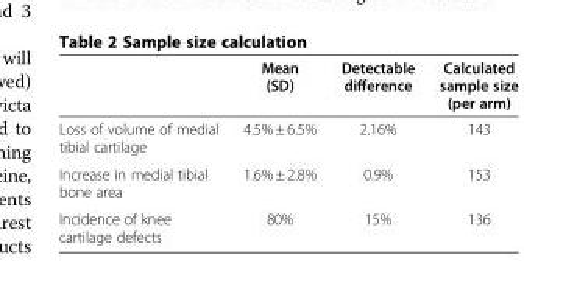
<table><thead><tr><td></td><td>Mean (SD)</td><td>Detectable difference</td><td>Calculated sample size (per arm)</td></tr></thead><tbody><tr><td>Loss of volume of medial tibial cartilage</td><td>4.5% ± 6.5%</td><td>2.16%</td><td>143</td></tr><tr><td>Increase in medial tibial bone area</td><td>1.6% ± 2.8%</td><td>0.9%</td><td>153</td></tr><tr><td>Incidence of knee cartilage defects</td><td>80%</td><td>15%</td><td>136</td></tr></tbody></table>